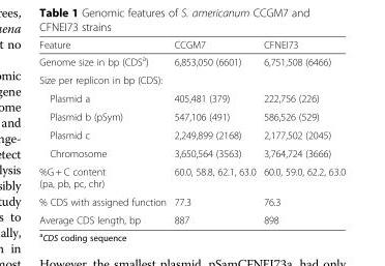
<table><thead><tr><td>Feature</td><td>CCGM7</td><td>CFNEI73</td></tr></thead><tbody><tr><td>Genome size in bp (CDS<sup>a</sup>)</td><td>6,853,050 (6601)</td><td>6,751,508 (6466)</td></tr><tr><td colspan="3">Size per replicon in bp (CDS):</td></tr><tr><td>Plasmid a</td><td>405,481 (379)</td><td>222,756 (226)</td></tr><tr><td>Plasmid b (pSym)</td><td>547,106 (491)</td><td>586,526 (529)</td></tr><tr><td>Plasmid c</td><td>2,249,899 (2168)</td><td>2,177,502 (2045)</td></tr><tr><td>Chromosome</td><td>3,650,564 (3563)</td><td>3,764,724 (3666)</td></tr><tr><td>%G + C content (pa, pb, pc, chr)</td><td>60.0, 58.8, 62.1, 63.0</td><td>60.0, 59.0, 62.2, 63.0</td></tr><tr><td>% CDS with assigned function</td><td>77.3</td><td>76.3</td></tr><tr><td>Average CDS length, bp</td><td>887</td><td>898</td></tr></tbody></table>